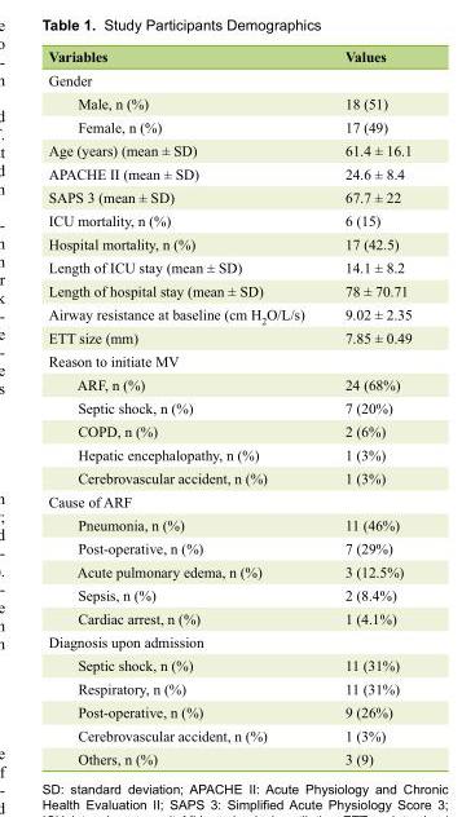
<table><thead><tr><td>Variables</td><td>Values</td></tr></thead><tbody><tr><td colspan="2">Gender</td></tr><tr><td>Male, n (%)</td><td>18 (51)</td></tr><tr><td>Female, n (%)</td><td>17 (49)</td></tr><tr><td>Age (years) (mean ± SD)</td><td>61.4 ± 16.1</td></tr><tr><td>APACHE II (mean ± SD)</td><td>24.6 ± 8.4</td></tr><tr><td>SAPS 3 (mean ± SD)</td><td>67.7 ± 22</td></tr><tr><td>ICU mortality, n (%)</td><td>6 (15)</td></tr><tr><td>Hospital mortality, n (%)</td><td>17 (42.5)</td></tr><tr><td>Length of ICU stay (mean ± SD)</td><td>14.1 ± 8.2</td></tr><tr><td>Length of hospital stay (mean ± SD)</td><td>78 ± 70.71</td></tr><tr><td>Airway resistance at baseline (cm H<sub>2</sub>O/L/s)</td><td>9.02 ± 2.35</td></tr><tr><td>ETT size (mm)</td><td>7.85 ± 0.49</td></tr><tr><td colspan="2">Reason to initiate MV</td></tr><tr><td>ARF, n (%)</td><td>24 (68%)</td></tr><tr><td>Septic shock, n (%)</td><td>7 (20%)</td></tr><tr><td>COPD, n (%)</td><td>2 (6%)</td></tr><tr><td>Hepatic encephalopathy, n (%)</td><td>1 (3%)</td></tr><tr><td>Cerebrovascular accident, n (%)</td><td>1 (3%)</td></tr><tr><td colspan="2">Cause of ARF</td></tr><tr><td>Pneumonia, n (%)</td><td>11 (46%)</td></tr><tr><td>Post-operative, n (%)</td><td>7 (29%)</td></tr><tr><td>Acute pulmonary edema, n (%)</td><td>3 (12.5%)</td></tr><tr><td>Sepsis, n (%)</td><td>2 (8.4%)</td></tr><tr><td>Cardiac arrest, n (%)</td><td>1 (4.1%)</td></tr><tr><td colspan="2">Diagnosis upon admission</td></tr><tr><td>Septic shock, n (%)</td><td>11 (31%)</td></tr><tr><td>Respiratory, n (%)</td><td>11 (31%)</td></tr><tr><td>Post-operative, n (%)</td><td>9 (26%)</td></tr><tr><td>Cerebrovascular accident, n (%)</td><td>1 (3%)</td></tr><tr><td>Others, n (%)</td><td>3 (9)</td></tr></tbody></table>